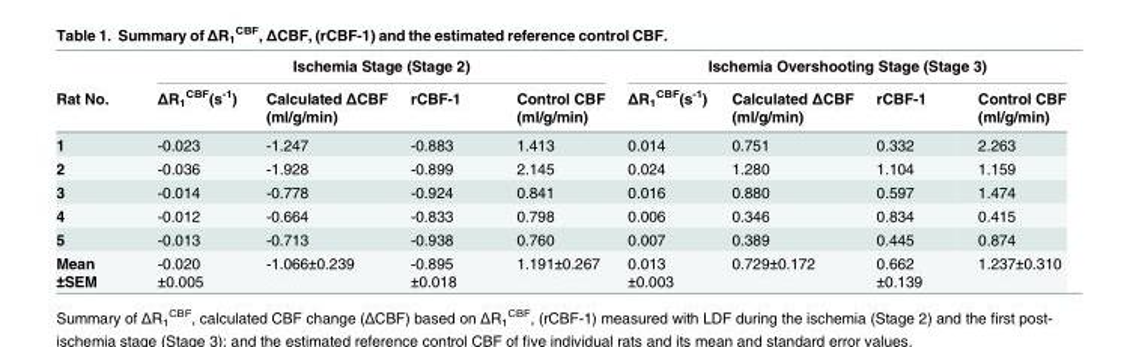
<table><thead><tr><td rowspan="2">Rat No.</td><td colspan="4">Ischemia Stage (Stage 2)</td><td colspan="4">Ischemia Overshooting Stage (Stage 3)</td></tr><tr><td>ΔR<sub>1</sub> <sup>CBF</sup>(s<sup>-1</sup>)</td><td>Calculated ΔCBF (ml/g/min)</td><td>rCBF-1</td><td>Control CBF (ml/g/min)</td><td>ΔR<sub>1</sub> <sup>CBF</sup>(s<sup>-1</sup>)</td><td>Calculated ΔCBF (ml/g/min)</td><td>rCBF-1</td><td>Control CBF (ml/g/min)</td></tr></thead><tbody><tr><td>1</td><td>-0.023</td><td>-1.247</td><td>-0.883</td><td>1.413</td><td>0.014</td><td>0.751</td><td>0.332</td><td>2.263</td></tr><tr><td>2</td><td>-0.036</td><td>-1.928</td><td>-0.899</td><td>2.145</td><td>0.024</td><td>1.280</td><td>1.104</td><td>1.159</td></tr><tr><td>3</td><td>-0.014</td><td>-0.778</td><td>-0.924</td><td>0.841</td><td>0.016</td><td>0.880</td><td>0.597</td><td>1.474</td></tr><tr><td>4</td><td>-0.012</td><td>-0.664</td><td>-0.833</td><td>0.798</td><td>0.006</td><td>0.346</td><td>0.834</td><td>0.415</td></tr><tr><td>5</td><td>-0.013</td><td>-0.713</td><td>-0.938</td><td>0.760</td><td>0.007</td><td>0.389</td><td>0.445</td><td>0.874</td></tr><tr><td>Mean ±SEM</td><td>-0.020 ±0.005</td><td>-1.066±0.239</td><td>-0.895 ±0.018</td><td>1.191±0.267</td><td>0.013 ±0.003</td><td>0.729±0.172</td><td>0.662 ±0.139</td><td>1.237±0.310</td></tr></tbody></table>